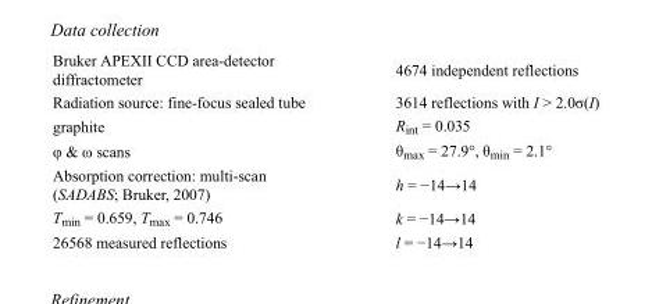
<table><tbody><tr><td>Bruker APEXII CCD area-detector diffractometer</td><td>4674 independent reflections</td></tr><tr><td>Radiation source: fine-focus sealed tube</td><td>3614 reflections with I &gt; 2.0σ(I)</td></tr><tr><td>graphite</td><td>R<sub>int</sub> = 0.035</td></tr><tr><td>φ &amp; ω scans</td><td>θ<sub>max</sub> = 27.9°, θ<sub>min</sub> = 2.1°</td></tr><tr><td>Absorption correction: multi-scan (SADABS; Bruker, 2007)</td><td>h = −14→14</td></tr><tr><td>T<sub>min</sub> = 0.659, T<sub>max</sub> = 0.746</td><td>k = −14→14</td></tr><tr><td>26568 measured reflections</td><td>l = −14→14</td></tr></tbody></table>